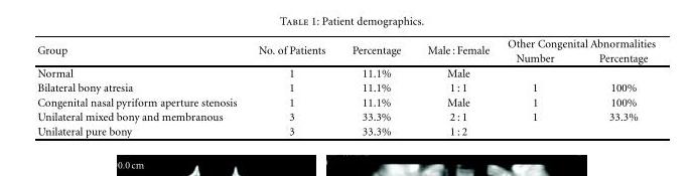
<table><thead><tr><td rowspan="2">Group</td><td rowspan="2">No. of Patients</td><td rowspan="2">Percentage</td><td rowspan="2">Male : Female</td><td colspan="2">Other Congenital Abnormalities</td></tr><tr><td>Number</td><td>Percentage</td></tr></thead><tbody><tr><td>Normal</td><td>1</td><td>11.1%</td><td>Male</td><td></td><td></td></tr><tr><td>Bilateral bony atresia</td><td>1</td><td>11.1%</td><td>1 : 1</td><td>1</td><td>100%</td></tr><tr><td>Congenital nasal pyriform aperture stenosis</td><td>1</td><td>11.1%</td><td>Male</td><td>1</td><td>100%</td></tr><tr><td>Unilateral mixed bony and membranous</td><td>3</td><td>33.3%</td><td>2 : 1</td><td>1</td><td>33.3%</td></tr><tr><td>Unilateral pure bony</td><td>3</td><td>33.3%</td><td>1 : 2</td><td></td><td></td></tr></tbody></table>